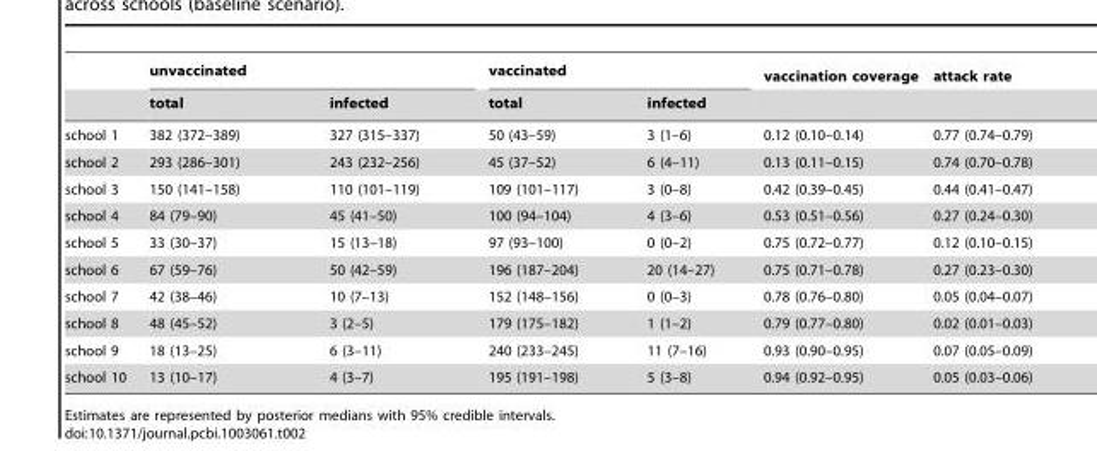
<table><thead><tr><td rowspan="2"></td><td colspan="2">unvaccinated</td><td colspan="2">vaccinated</td><td rowspan="2">vaccination coverage</td><td rowspan="2">attack rate</td></tr><tr><td>total</td><td>infected</td><td>total</td><td>infected</td></tr></thead><tbody><tr><td>school 1</td><td>382 (372–389)</td><td>327 (315–337)</td><td>50 (43–59)</td><td>3 (1–6)</td><td>0.12 (0.10–0.14)</td><td>0.77 (0.74–0.79)</td></tr><tr><td>school 2</td><td>293 (286–301)</td><td>243 (232–256)</td><td>45 (37–52)</td><td>6 (4–11)</td><td>0.13 (0.11–0.15)</td><td>0.74 (0.70–0.78)</td></tr><tr><td>school 3</td><td>150 (141–158)</td><td>110 (101–119)</td><td>109 (101–117)</td><td>3 (0–8)</td><td>0.42 (0.39–0.45)</td><td>0.44 (0.41–0.47)</td></tr><tr><td>school 4</td><td>84 (79–90)</td><td>45 (41–50)</td><td>100 (94–104)</td><td>4 (3–6)</td><td>0.53 (0.51–0.56)</td><td>0.27 (0.24–0.30)</td></tr><tr><td>school 5</td><td>33 (30–37)</td><td>15 (13–18)</td><td>97 (93–100)</td><td>0 (0–2)</td><td>0.75 (0.72–0.77)</td><td>0.12 (0.10–0.15)</td></tr><tr><td>school 6</td><td>67 (59–76)</td><td>50 (42–59)</td><td>196 (187–204)</td><td>20 (14–27)</td><td>0.75 (0.71–0.78)</td><td>0.27 (0.23–0.30)</td></tr><tr><td>school 7</td><td>42 (38–46)</td><td>10 (7–13)</td><td>152 (148–156)</td><td>0 (0–3)</td><td>0.78 (0.76–0.80)</td><td>0.05 (0.04–0.07)</td></tr><tr><td>school 8</td><td>48 (45–52)</td><td>3 (2–5)</td><td>179 (175–182)</td><td>1 (1–2)</td><td>0.79 (0.77–0.80)</td><td>0.02 (0.01–0.03)</td></tr><tr><td>school 9</td><td>18 (13–25)</td><td>6 (3–11)</td><td>240 (233–245)</td><td>11 (7–16)</td><td>0.93 (0.90–0.95)</td><td>0.07 (0.05–0.09)</td></tr><tr><td>school 10</td><td>13 (10–17)</td><td>4 (3–7)</td><td>195 (191–198)</td><td>5 (3–8)</td><td>0.94 (0.92–0.95)</td><td>0.05 (0.03–0.06)</td></tr></tbody></table>